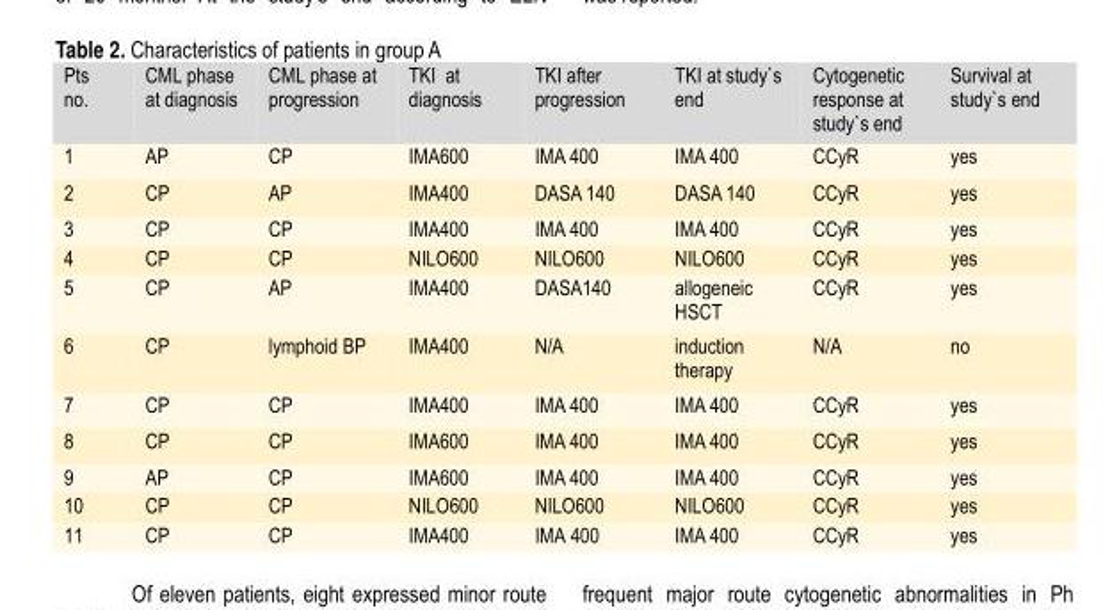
<table><tbody><tr><td>Pts no.</td><td>CML phase at diagnosis</td><td>CML phase at progression</td><td>TKI at diagnosis</td><td>TKI after progression</td><td>TKI at study`s end</td><td>Cytogenetic response at study`s end</td><td>Survival at study`s end</td></tr><tr><td>1</td><td>AP</td><td>CP</td><td>IMA600</td><td>IMA 400</td><td>IMA 400</td><td>CCyR</td><td>yes</td></tr><tr><td>2</td><td>CP</td><td>AP</td><td>IMA400</td><td>DASA 140</td><td>DASA 140</td><td>CCyR</td><td>yes</td></tr><tr><td>3</td><td>CP</td><td>CP</td><td>IMA400</td><td>IMA 400</td><td>IMA 400</td><td>CCyR</td><td>yes</td></tr><tr><td>4</td><td>CP</td><td>CP</td><td>NILO600</td><td>NILO600</td><td>NILO600</td><td>CCyR</td><td>yes</td></tr><tr><td>5</td><td>CP</td><td>AP</td><td>IMA400</td><td>DASA140</td><td>allogeneic HSCT</td><td>CCyR</td><td>yes</td></tr><tr><td>6</td><td>CP</td><td>lymphoid BP</td><td>IMA400</td><td>N/A</td><td>induction therapy</td><td>N/A</td><td>no</td></tr><tr><td>7</td><td>CP</td><td>CP</td><td>IMA400</td><td>IMA 400</td><td>IMA 400</td><td>CCyR</td><td>yes</td></tr><tr><td>8</td><td>CP</td><td>CP</td><td>IMA600</td><td>IMA 400</td><td>IMA 400</td><td>CCyR</td><td>yes</td></tr><tr><td>9</td><td>AP</td><td>CP</td><td>IMA600</td><td>IMA 400</td><td>IMA 400</td><td>CCyR</td><td>yes</td></tr><tr><td>10</td><td>CP</td><td>CP</td><td>NILO600</td><td>NILO600</td><td>NILO600</td><td>CCyR</td><td>yes</td></tr><tr><td>11</td><td>CP</td><td>CP</td><td>IMA400</td><td>IMA 400</td><td>IMA 400</td><td>CCyR</td><td>yes</td></tr></tbody></table>